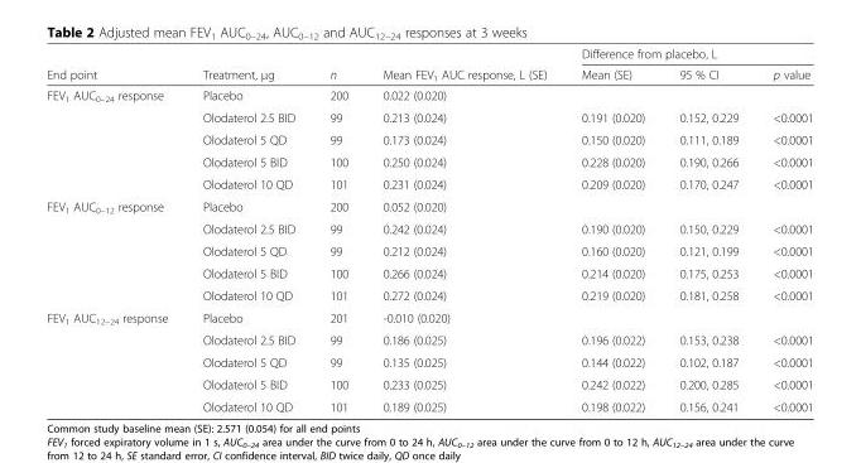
<table><thead><tr><td rowspan="2">End point</td><td rowspan="2">Treatment, μg</td><td rowspan="2">n</td><td rowspan="2">Mean FEV<sub>1</sub> AUC response, L (SE)</td><td colspan="3">Difference from placebo, L</td></tr><tr><td>Mean (SE)</td><td>95 % CI</td><td>p value</td></tr></thead><tbody><tr><td rowspan="5">FEV<sub>1</sub> AUC<sub>0–24</sub> response</td><td>Placebo</td><td>200</td><td>0.022 (0.020)</td><td></td><td></td><td></td></tr><tr><td>Olodaterol 2.5 BID</td><td>99</td><td>0.213 (0.024)</td><td>0.191 (0.020)</td><td>0.152, 0.229</td><td>&lt;0.0001</td></tr><tr><td>Olodaterol 5 QD</td><td>99</td><td>0.173 (0.024)</td><td>0.150 (0.020)</td><td>0.111, 0.189</td><td>&lt;0.0001</td></tr><tr><td>Olodaterol 5 BID</td><td>100</td><td>0.250 (0.024)</td><td>0.228 (0.020)</td><td>0.190, 0.266</td><td>&lt;0.0001</td></tr><tr><td>Olodaterol 10 QD</td><td>101</td><td>0.231 (0.024)</td><td>0.209 (0.020)</td><td>0.170, 0.247</td><td>&lt;0.0001</td></tr><tr><td rowspan="5">FEV<sub>1</sub> AUC<sub>0–12</sub> response</td><td>Placebo</td><td>200</td><td>0.052 (0.020)</td><td></td><td></td><td></td></tr><tr><td>Olodaterol 2.5 BID</td><td>99</td><td>0.242 (0.024)</td><td>0.190 (0.020)</td><td>0.150, 0.229</td><td>&lt;0.0001</td></tr><tr><td>Olodaterol 5 QD</td><td>99</td><td>0.212 (0.024)</td><td>0.160 (0.020)</td><td>0.121, 0.199</td><td>&lt;0.0001</td></tr><tr><td>Olodaterol 5 BID</td><td>100</td><td>0.266 (0.024)</td><td>0.214 (0.020)</td><td>0.175, 0.253</td><td>&lt;0.0001</td></tr><tr><td>Olodaterol 10 QD</td><td>101</td><td>0.272 (0.024)</td><td>0.219 (0.020)</td><td>0.181, 0.258</td><td>&lt;0.0001</td></tr><tr><td rowspan="5">FEV<sub>1</sub> AUC<sub>12–24</sub> response</td><td>Placebo</td><td>201</td><td>-0.010 (0.020)</td><td></td><td></td><td></td></tr><tr><td>Olodaterol 2.5 BID</td><td>99</td><td>0.186 (0.025)</td><td>0.196 (0.022)</td><td>0.153, 0.238</td><td>&lt;0.0001</td></tr><tr><td>Olodaterol 5 QD</td><td>99</td><td>0.135 (0.025)</td><td>0.144 (0.022)</td><td>0.102, 0.187</td><td>&lt;0.0001</td></tr><tr><td>Olodaterol 5 BID</td><td>100</td><td>0.233 (0.025)</td><td>0.242 (0.022)</td><td>0.200, 0.285</td><td>&lt;0.0001</td></tr><tr><td>Olodaterol 10 QD</td><td>101</td><td>0.189 (0.025)</td><td>0.198 (0.022)</td><td>0.156, 0.241</td><td>&lt;0.0001</td></tr></tbody></table>